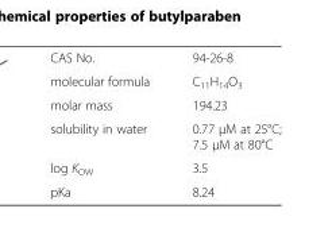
<table><tbody><tr><td>CAS No.</td><td>94-26-8</td></tr><tr><td>molecular formula</td><td>C<sub>11</sub>H<sub>14</sub>O<sub>3</sub></td></tr><tr><td>molar mass</td><td>194.23</td></tr><tr><td>solubility in water</td><td>0.77 μM at 25°C; 7.5 μM at 80°C</td></tr><tr><td>log K<sub>OW</sub></td><td>3.5</td></tr><tr><td>pKa</td><td>8.24</td></tr></tbody></table>